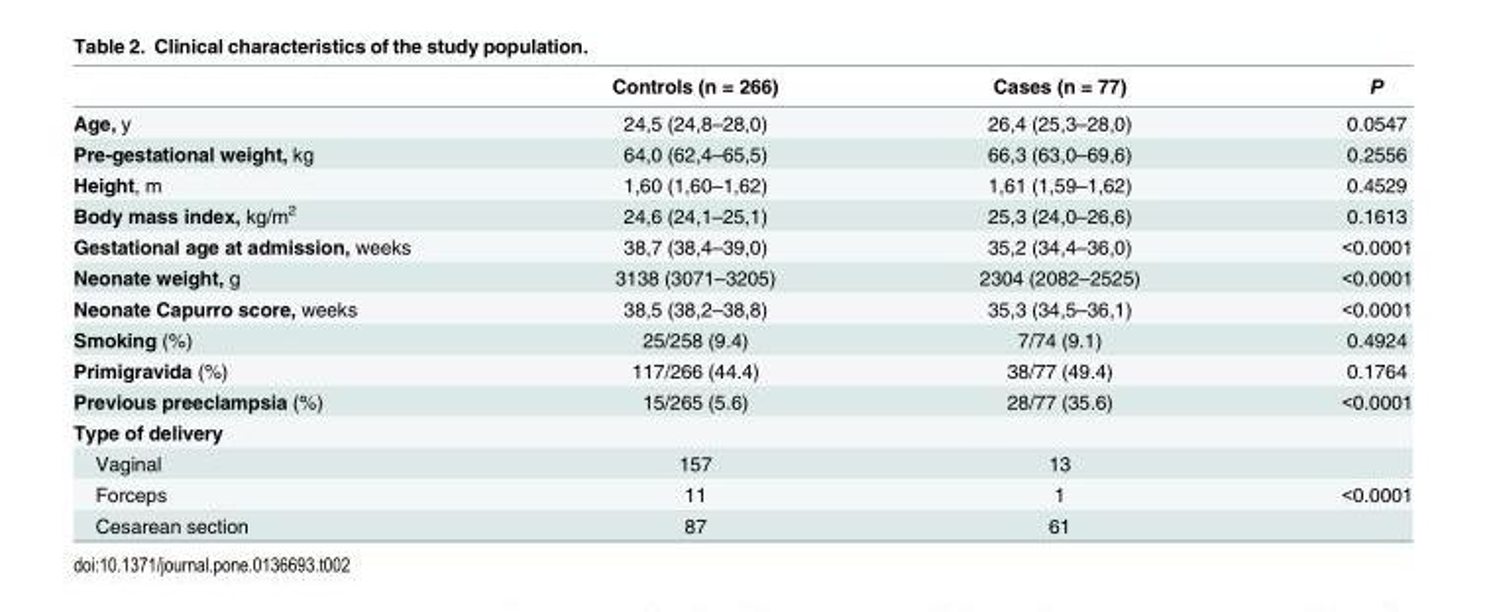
<table><thead><tr><td></td><td>Controls (n = 266)</td><td>Cases (n = 77)</td><td>P</td></tr></thead><tbody><tr><td>Age, y</td><td>24,5 (24,8–28,0)</td><td>26,4 (25,3–28,0)</td><td>0.0547</td></tr><tr><td>Pre-gestational weight, kg</td><td>64,0 (62,4–65,5)</td><td>66,3 (63,0–69,6)</td><td>0.2556</td></tr><tr><td>Height, m</td><td>1,60 (1,60–1,62)</td><td>1,61 (1,59–1,62)</td><td>0.4529</td></tr><tr><td>Body mass index, kg/m<sup>2</sup></td><td>24,6 (24,1–25,1)</td><td>25,3 (24,0–26,6)</td><td>0.1613</td></tr><tr><td>Gestational age at admission, weeks</td><td>38,7 (38,4–39,0)</td><td>35,2 (34,4–36,0)</td><td>&lt;0.0001</td></tr><tr><td>Neonate weight, g</td><td>3138 (3071–3205)</td><td>2304 (2082–2525)</td><td>&lt;0.0001</td></tr><tr><td>Neonate Capurro score, weeks</td><td>38,5 (38,2–38,8)</td><td>35,3 (34,5–36,1)</td><td>&lt;0.0001</td></tr><tr><td>Smoking (%)</td><td>25/258 (9.4)</td><td>7/74 (9.1)</td><td>0.4924</td></tr><tr><td>Primigravida (%)</td><td>117/266 (44.4)</td><td>38/77 (49.4)</td><td>0.1764</td></tr><tr><td>Previous preeclampsia (%)</td><td>15/265 (5.6)</td><td>28/77 (35.6)</td><td>&lt;0.0001</td></tr><tr><td colspan="4">Type of delivery</td></tr><tr><td>Vaginal</td><td>157</td><td>13</td><td></td></tr><tr><td>Forceps</td><td>11</td><td>1</td><td>&lt;0.0001</td></tr><tr><td>Cesarean section</td><td>87</td><td>61</td><td></td></tr></tbody></table>